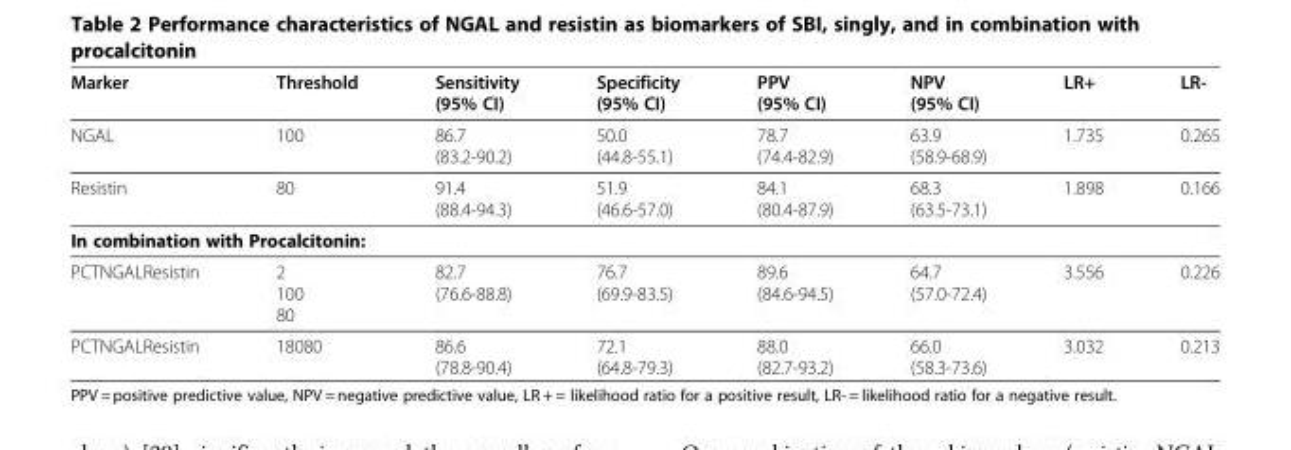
<table><thead><tr><td>Marker</td><td>Threshold</td><td>Sensitivity (95% CI)</td><td>Specificity (95% CI)</td><td>PPV (95% CI)</td><td>NPV (95% CI)</td><td>LR+</td><td>LR-</td></tr></thead><tbody><tr><td>NGAL</td><td>100</td><td>86.7 (83.2-90.2)</td><td>50.0 (44.8-55.1)</td><td>78.7 (74.4-82.9)</td><td>63.9 (58.9-68.9)</td><td>1.735</td><td>0.265</td></tr><tr><td>Resistin</td><td>80</td><td>91.4 (88.4-94.3)</td><td>51.9 (46.6-57.0)</td><td>84.1 (80.4-87.9)</td><td>68.3 (63.5-73.1)</td><td>1.898</td><td>0.166</td></tr><tr><td colspan="8">In combination with Procalcitonin:</td></tr><tr><td>PCTNGALResistin</td><td>2 100 80</td><td>82.7 (76.6-88.8)</td><td>76.7 (69.9-83.5)</td><td>89.6 (84.6-94.5)</td><td>64.7 (57.0-72.4)</td><td>3.556</td><td>0.226</td></tr><tr><td>PCTNGALResistin</td><td>18080</td><td>86.6 (78.8-90.4)</td><td>72.1 (64.8-79.3)</td><td>88.0 (82.7-93.2)</td><td>66.0 (58.3-73.6)</td><td>3.032</td><td>0.213</td></tr></tbody></table>